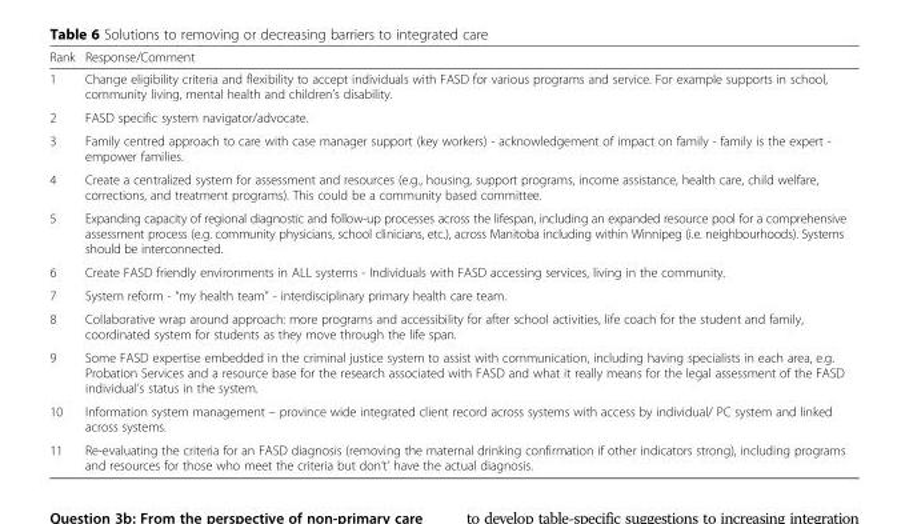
<table><thead><tr><td>Rank</td><td>Response/Comment</td></tr></thead><tbody><tr><td>1</td><td>Change eligibility criteria and flexibility to accept individuals with FASD for various programs and service. For example supports in school, community living, mental health and children’s disability.</td></tr><tr><td>2</td><td>FASD specific system navigator/advocate.</td></tr><tr><td>3</td><td>Family centred approach to care with case manager support (key workers) - acknowledgement of impact on family - family is the expert - empower families.</td></tr><tr><td>4</td><td>Create a centralized system for assessment and resources (e.g., housing, support programs, income assistance, health care, child welfare, corrections, and treatment programs). This could be a community based committee.</td></tr><tr><td>5</td><td>Expanding capacity of regional diagnostic and follow-up processes across the lifespan, including an expanded resource pool for a comprehensive assessment process (e.g. community physicians, school clinicians, etc.), across Manitoba including within Winnipeg (i.e. neighbourhoods). Systems should be interconnected.</td></tr><tr><td>6</td><td>Create FASD friendly environments in ALL systems - Individuals with FASD accessing services, living in the community.</td></tr><tr><td>7</td><td>System reform - “my health team” - interdisciplinary primary health care team.</td></tr><tr><td>8</td><td>Collaborative wrap around approach: more programs and accessibility for after school activities, life coach for the student and family, coordinated system for students as they move through the life span.</td></tr><tr><td>9</td><td>Some FASD expertise embedded in the criminal justice system to assist with communication, including having specialists in each area, e.g. Probation Services and a resource base for the research associated with FASD and what it really means for the legal assessment of the FASD individual’s status in the system.</td></tr><tr><td>10</td><td>Information system management – province wide integrated client record across systems with access by individual/ PC system and linked across systems.</td></tr><tr><td>11</td><td>Re-evaluating the criteria for an FASD diagnosis (removing the maternal drinking confirmation if other indicators strong), including programs and resources for those who meet the criteria but don‘t’ have the actual diagnosis.</td></tr></tbody></table>